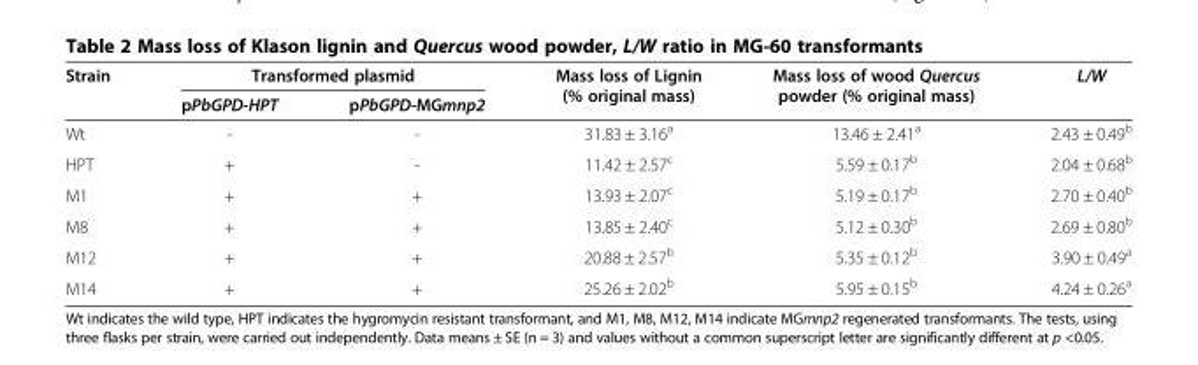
<table><thead><tr><td rowspan="2">Strain</td><td colspan="2">Transformed plasmid</td><td rowspan="2">Mass loss of Lignin (% original mass)</td><td rowspan="2">Mass loss of wood Quercus powder (% original mass)</td><td rowspan="2">L/W</td></tr><tr><td>pPbGPD-HPT</td><td>pPbGPD-MGmnp2</td></tr></thead><tbody><tr><td>Wt</td><td>-</td><td>-</td><td>31.83 ± 3.16<sup>a</sup></td><td>13.46 ± 2.41<sup>a</sup></td><td>2.43 ± 0.49<sup>b</sup></td></tr><tr><td>HPT</td><td>+</td><td>-</td><td>11.42 ± 2.57<sup>c</sup></td><td>5.59 ± 0.17<sup>b</sup></td><td>2.04 ± 0.68<sup>b</sup></td></tr><tr><td>M1</td><td>+</td><td>+</td><td>13.93 ± 2.07<sup>c</sup></td><td>5.19 ± 0.17<sup>b</sup></td><td>2.70 ± 0.40<sup>b</sup></td></tr><tr><td>M8</td><td>+</td><td>+</td><td>13.85 ± 2.40<sup>c</sup></td><td>5.12 ± 0.30<sup>b</sup></td><td>2.69 ± 0.80<sup>b</sup></td></tr><tr><td>M12</td><td>+</td><td>+</td><td>20.88 ± 2.57<sup>b</sup></td><td>5.35 ± 0.12<sup>b</sup></td><td>3.90 ± 0.49<sup>a</sup></td></tr><tr><td>M14</td><td>+</td><td>+</td><td>25.26 ± 2.02<sup>b</sup></td><td>5.95 ± 0.15<sup>b</sup></td><td>4.24 ± 0.26<sup>a</sup></td></tr></tbody></table>